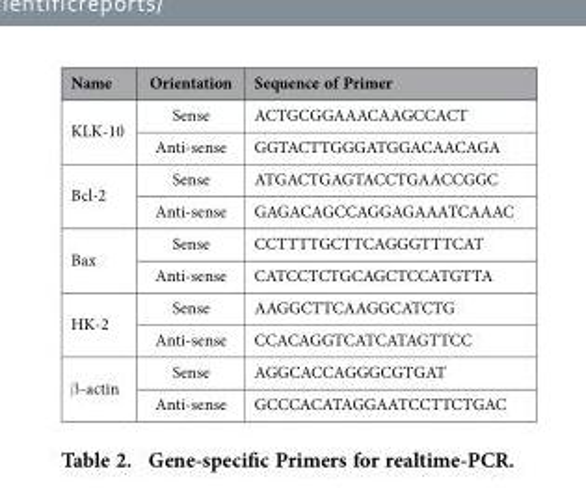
<table><thead><tr><td>Name</td><td>Orientation</td><td>Sequence of Primer</td></tr></thead><tbody><tr><td rowspan="2">KLK-10</td><td>Sense</td><td>ACTGCGGAAACAAGCCACT</td></tr><tr><td>Anti-sense</td><td>GGTACTTGGGATGGACAACAGA</td></tr><tr><td rowspan="2">Bcl-2</td><td>Sense</td><td>ATGACTGAGTACCTGAACCGGC</td></tr><tr><td>Anti-sense</td><td>GAGACAGCCAGGAGAAATCAAAC</td></tr><tr><td rowspan="2">Bax</td><td>Sense</td><td>CCTTTTGCTTCAGGGTTTCAT</td></tr><tr><td>Anti-sense</td><td>CATCCTCTGCAGCTCCATGTTA</td></tr><tr><td rowspan="2">HK-2</td><td>Sense</td><td>AAGGCTTCAAGGCATCTG</td></tr><tr><td>Anti-sense</td><td>CCACAGGTCATCATAGTTCC</td></tr><tr><td rowspan="2">β -actin</td><td>Sense</td><td>AGGCACCAGGGCGTGAT</td></tr><tr><td>Anti-sense</td><td>GCCCACATAGGAATCCTTCTGAC</td></tr></tbody></table>